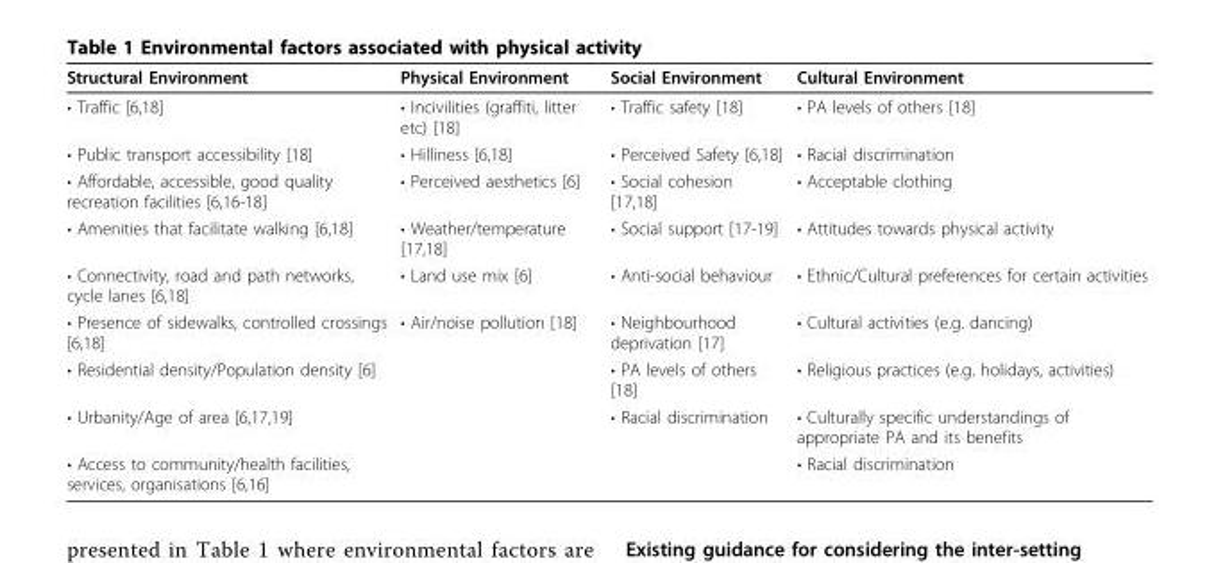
<table><thead><tr><td>Structural Environment</td><td>Physical Environment</td><td>Social Environment</td><td>Cultural Environment</td></tr></thead><tbody><tr><td>• Traffic [6,18]</td><td>• Incivilities (graffiti, litter etc) [18]</td><td>• Traffic safety [18]</td><td>• PA levels of others [18]</td></tr><tr><td>• Public transport accessibility [18]</td><td>• Hilliness [6,18]</td><td>• Perceived Safety [6,18]</td><td>• Racial discrimination</td></tr><tr><td>• Affordable, accessible, good quality recreation facilities [6,16-18]</td><td>• Perceived aesthetics [6]</td><td>• Social cohesion [17,18]</td><td>• Acceptable clothing</td></tr><tr><td>• Amenities that facilitate walking [6,18]</td><td>• Weather/temperature [17,18]</td><td>• Social support [17-19]</td><td>• Attitudes towards physical activity</td></tr><tr><td>• Connectivity, road and path networks, cycle lanes [6,18]</td><td>• Land use mix [6]</td><td>• Anti-social behaviour</td><td>• Ethnic/Cultural preferences for certain activities</td></tr><tr><td>• Presence of sidewalks, controlled crossings [6,18]</td><td>• Air/noise pollution [18]</td><td>• Neighbourhood deprivation [17]</td><td>• Cultural activities (e.g. dancing)</td></tr><tr><td>• Residential density/Population density [6]</td><td></td><td>• PA levels of others [18]</td><td>• Religious practices (e.g. holidays, activities)</td></tr><tr><td>• Urbanity/Age of area [6,17,19]</td><td></td><td>• Racial discrimination</td><td>• Culturally specific understandings of appropriate PA and its benefits</td></tr><tr><td>• Access to community/health facilities, services, organisations [6,16]</td><td></td><td></td><td>• Racial discrimination</td></tr></tbody></table>